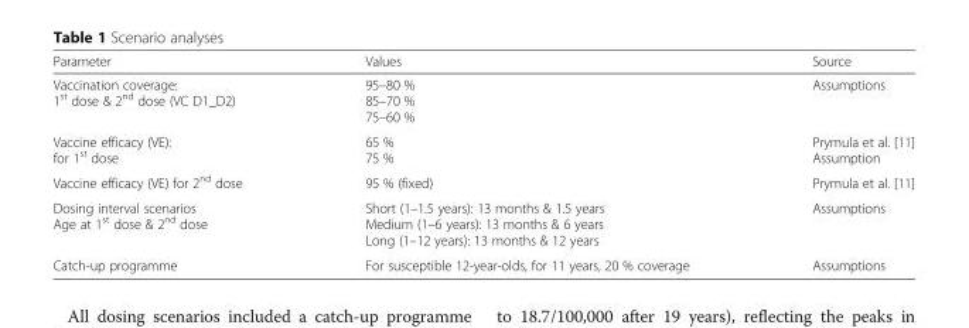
<table><thead><tr><td>Parameter</td><td>Values</td><td>Source</td></tr></thead><tbody><tr><td>Vaccination coverage: 1<sup>st</sup> dose &amp; 2<sup>nd</sup> dose (VC D1_D2)</td><td>95–80 % 85–70 % 75–60 %</td><td>Assumptions</td></tr><tr><td>Vaccine efficacy (VE): for 1<sup>st</sup> dose</td><td>65 % 75 %</td><td>Prymula et al. [11] Assumption</td></tr><tr><td>Vaccine efficacy (VE) for 2<sup>nd</sup> dose</td><td>95 % (fixed)</td><td>Prymula et al. [11]</td></tr><tr><td>Dosing interval scenarios Age at 1<sup>st</sup> dose &amp; 2<sup>nd</sup> dose</td><td>Short (1–1.5 years): 13 months &amp; 1.5 years Medium (1–6 years): 13 months &amp; 6 years Long (1–12 years): 13 months &amp; 12 years</td><td>Assumptions</td></tr><tr><td>Catch-up programme</td><td>For susceptible 12-year-olds, for 11 years, 20 % coverage</td><td>Assumptions</td></tr></tbody></table>